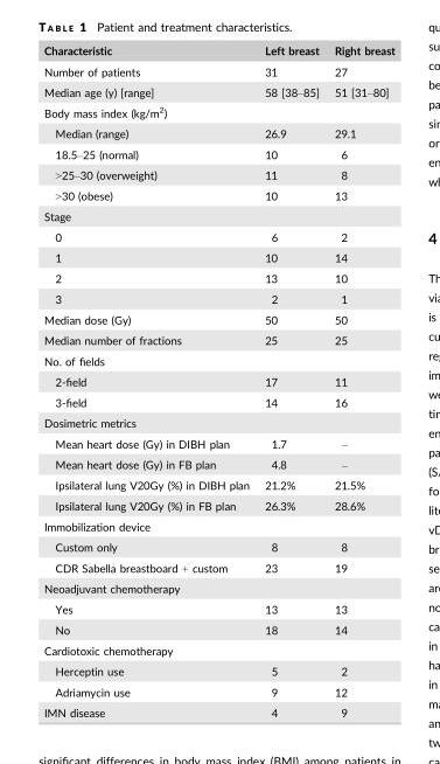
<table><thead><tr><td>Characteristic</td><td>Left breast</td><td>Right breast</td></tr></thead><tbody><tr><td>Number of patients</td><td>31</td><td>27</td></tr><tr><td>Median age (y) [range]</td><td>58 [38–85]</td><td>51 [31–80]</td></tr><tr><td colspan="3">Body mass index (kg/m<sup>2</sup>)</td></tr><tr><td>Median (range)</td><td>26.9</td><td>29.1</td></tr><tr><td>18.5–25 (normal)</td><td>10</td><td>6</td></tr><tr><td>&gt;25–30 (overweight)</td><td>11</td><td>8</td></tr><tr><td>&gt;30 (obese)</td><td>10</td><td>13</td></tr><tr><td colspan="3">Stage</td></tr><tr><td>0</td><td>6</td><td>2</td></tr><tr><td>1</td><td>10</td><td>14</td></tr><tr><td>2</td><td>13</td><td>10</td></tr><tr><td>3</td><td>2</td><td>1</td></tr><tr><td>Median dose (Gy)</td><td>50</td><td>50</td></tr><tr><td>Median number of fractions</td><td>25</td><td>25</td></tr><tr><td colspan="3">No. of fields</td></tr><tr><td>2-field</td><td>17</td><td>11</td></tr><tr><td>3-field</td><td>14</td><td>16</td></tr><tr><td colspan="3">Dosimetric metrics</td></tr><tr><td>Mean heart dose (Gy) in DIBH plan</td><td>1.7</td><td>–</td></tr><tr><td>Mean heart dose (Gy) in FB plan</td><td>4.8</td><td>–</td></tr><tr><td>Ipsilateral lung V20Gy (%) in DIBH plan</td><td>21.2%</td><td>21.5%</td></tr><tr><td>Ipsilateral lung V20Gy (%) in FB plan</td><td>26.3%</td><td>28.6%</td></tr><tr><td colspan="3">Immobilization device</td></tr><tr><td>Custom only</td><td>8</td><td>8</td></tr><tr><td>CDR Sabella breastboard + custom</td><td>23</td><td>19</td></tr><tr><td colspan="3">Neoadjuvant chemotherapy</td></tr><tr><td>Yes</td><td>13</td><td>13</td></tr><tr><td>No</td><td>18</td><td>14</td></tr><tr><td colspan="3">Cardiotoxic chemotherapy</td></tr><tr><td>Herceptin use</td><td>5</td><td>2</td></tr><tr><td>Adriamycin use</td><td>9</td><td>12</td></tr><tr><td>IMN disease</td><td>4</td><td>9</td></tr></tbody></table>